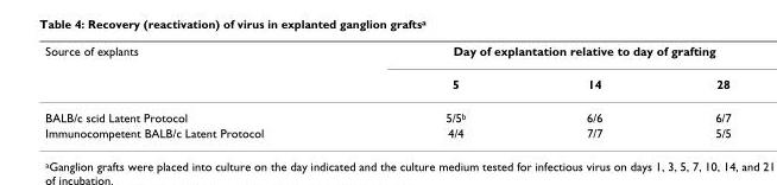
<table><thead><tr><td rowspan="2">Source of explants</td><td colspan="3">Day of explantation relative to day of grafting</td></tr><tr><td>5</td><td>14</td><td>28</td></tr></thead><tbody><tr><td>BALB/c scid Latent Protocol</td><td>5/5<sup>b</sup></td><td>6/6</td><td>6/7</td></tr><tr><td>Immunocompetent BALB/c Latent Protocol</td><td>4/4</td><td>7/7</td><td>5/5</td></tr></tbody></table>